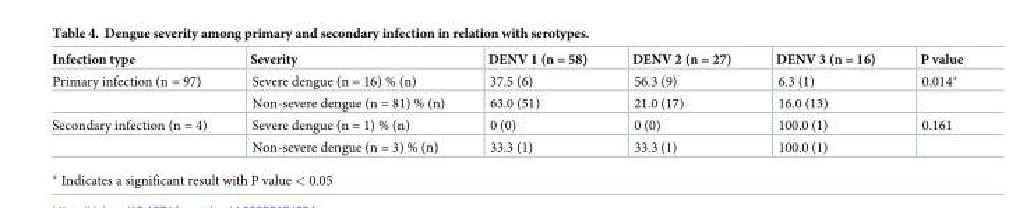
<table><thead><tr><td>Infection type</td><td>Severity</td><td>DENV 1 (n = 58)</td><td>DENV 2 (n = 27)</td><td>DENV 3 (n = 16)</td><td>P value</td></tr></thead><tbody><tr><td rowspan="2">Primary infection (n = 97)</td><td>Severe dengue (n = 16) % (n)</td><td>37.5 (6)</td><td>56.3 (9)</td><td>6.3 (1)</td><td>0.014*</td></tr><tr><td>Non-severe dengue (n = 81) % (n)</td><td>63.0 (51)</td><td>21.0 (17)</td><td>16.0 (13)</td><td></td></tr><tr><td rowspan="2">Secondary infection (n = 4)</td><td>Severe dengue (n = 1) % (n)</td><td>0 (0)</td><td>0 (0)</td><td>100.0 (1)</td><td>0.161</td></tr><tr><td>Non-severe dengue (n = 3) % (n)</td><td>33.3 (1)</td><td>33.3 (1)</td><td>100.0 (1)</td><td></td></tr></tbody></table>